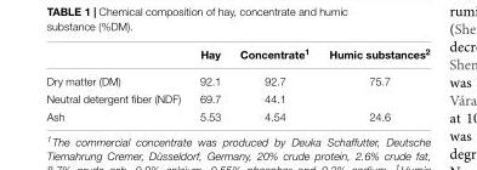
<table><thead><tr><td></td><td>Hay</td><td>Concentrate<sup>1</sup></td><td>Humic substances<sup>2</sup></td></tr></thead><tbody><tr><td>Dry matter (DM)</td><td>92.1</td><td>92.7</td><td>75.7</td></tr><tr><td>Neutral detergent fiber (NDF)</td><td>69.7</td><td>44.1</td><td></td></tr><tr><td>Ash</td><td>5.53</td><td>4.54</td><td>24.6</td></tr></tbody></table>